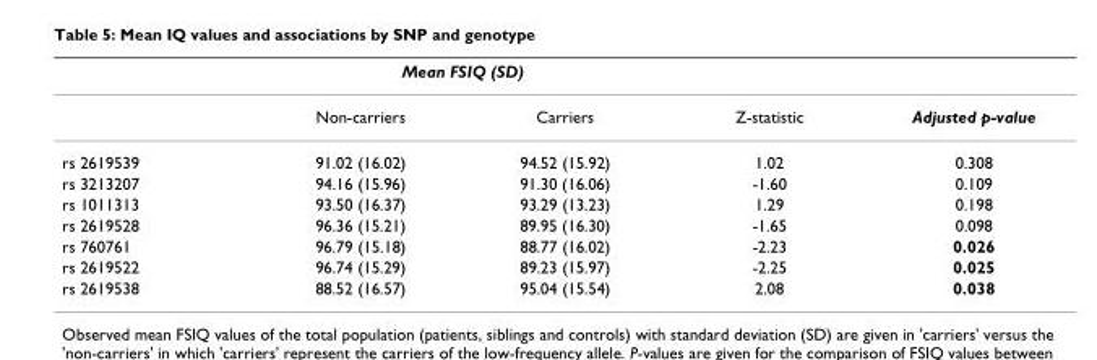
<table><thead><tr><td rowspan="2"></td><td colspan="2">Mean FSIQ (SD)</td><td rowspan="2">Z-statistic</td><td rowspan="2">Adjusted p-value</td></tr><tr><td>Non-carriers</td><td>Carriers</td></tr></thead><tbody><tr><td>rs 2619539</td><td>91.02 (16.02)</td><td>94.52 (15.92)</td><td>1.02</td><td>0.308</td></tr><tr><td>rs 3213207</td><td>94.16 (15.96)</td><td>91.30 (16.06)</td><td>-1.60</td><td>0.109</td></tr><tr><td>rs 1011313</td><td>93.50 (16.37)</td><td>93.29 (13.23)</td><td>1.29</td><td>0.198</td></tr><tr><td>rs 2619528</td><td>96.36 (15.21)</td><td>89.95 (16.30)</td><td>-1.65</td><td>0.098</td></tr><tr><td>rs 760761</td><td>96.79 (15.18)</td><td>88.77 (16.02)</td><td>-2.23</td><td>0.026</td></tr><tr><td>rs 2619522</td><td>96.74 (15.29)</td><td>89.23 (15.97)</td><td>-2.25</td><td>0.025</td></tr><tr><td>rs 2619538</td><td>88.52 (16.57)</td><td>95.04 (15.54)</td><td>2.08</td><td>0.038</td></tr></tbody></table>